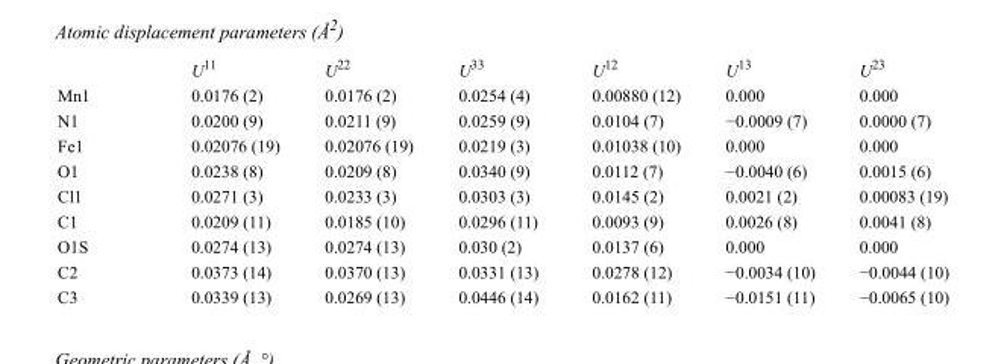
<table><thead><tr><td></td><td>U<sup>11</sup></td><td>U<sup>22</sup></td><td>U<sup>33</sup></td><td>U<sup>12</sup></td><td>U<sup>13</sup></td><td>U<sup>23</sup></td></tr></thead><tbody><tr><td>Mn1</td><td>0.0176 (2)</td><td>0.0176 (2)</td><td>0.0254 (4)</td><td>0.00880 (12)</td><td>0.000</td><td>0.000</td></tr><tr><td>N1</td><td>0.0200 (9)</td><td>0.0211 (9)</td><td>0.0259 (9)</td><td>0.0104 (7)</td><td>−0.0009 (7)</td><td>0.0000 (7)</td></tr><tr><td>Fe1</td><td>0.02076 (19)</td><td>0.02076 (19)</td><td>0.0219 (3)</td><td>0.01038 (10)</td><td>0.000</td><td>0.000</td></tr><tr><td>O1</td><td>0.0238 (8)</td><td>0.0209 (8)</td><td>0.0340 (9)</td><td>0.0112 (7)</td><td>−0.0040 (6)</td><td>0.0015 (6)</td></tr><tr><td>Cl1</td><td>0.0271 (3)</td><td>0.0233 (3)</td><td>0.0303 (3)</td><td>0.0145 (2)</td><td>0.0021 (2)</td><td>0.00083 (19)</td></tr><tr><td>C1</td><td>0.0209 (11)</td><td>0.0185 (10)</td><td>0.0296 (11)</td><td>0.0093 (9)</td><td>0.0026 (8)</td><td>0.0041 (8)</td></tr><tr><td>O1S</td><td>0.0274 (13)</td><td>0.0274 (13)</td><td>0.030 (2)</td><td>0.0137 (6)</td><td>0.000</td><td>0.000</td></tr><tr><td>C2</td><td>0.0373 (14)</td><td>0.0370 (13)</td><td>0.0331 (13)</td><td>0.0278 (12)</td><td>−0.0034 (10)</td><td>−0.0044 (10)</td></tr><tr><td>C3</td><td>0.0339 (13)</td><td>0.0269 (13)</td><td>0.0446 (14)</td><td>0.0162 (11)</td><td>−0.0151 (11)</td><td>−0.0065 (10)</td></tr></tbody></table>